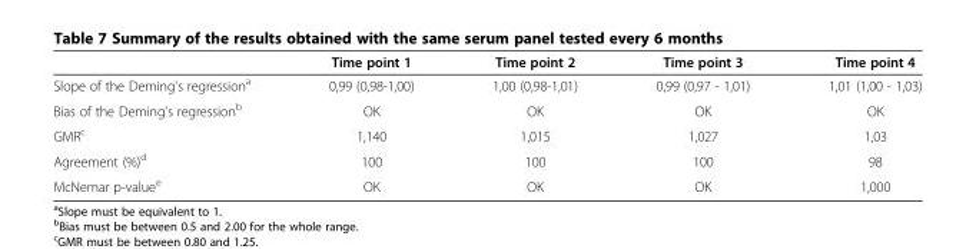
<table><thead><tr><td></td><td>Time point 1</td><td>Time point 2</td><td>Time point 3</td><td>Time point 4</td></tr></thead><tbody><tr><td>Slope of the Deming&#x27;s regression<sup>a</sup></td><td>0,99 (0,98-1,00)</td><td>1,00 (0,98-1,01)</td><td>0,99 (0,97 - 1,01)</td><td>1,01 (1,00 - 1,03)</td></tr><tr><td>Bias of the Deming&#x27;s regression<sup>b</sup></td><td>OK</td><td>OK</td><td>OK</td><td>OK</td></tr><tr><td>GMR<sup>c</sup></td><td>1,140</td><td>1,015</td><td>1,027</td><td>1,03</td></tr><tr><td>Agreement (%)<sup>d</sup></td><td>100</td><td>100</td><td>100</td><td>98</td></tr><tr><td>McNemar p-value<sup>e</sup></td><td>OK</td><td>OK</td><td>OK</td><td>1,000</td></tr></tbody></table>